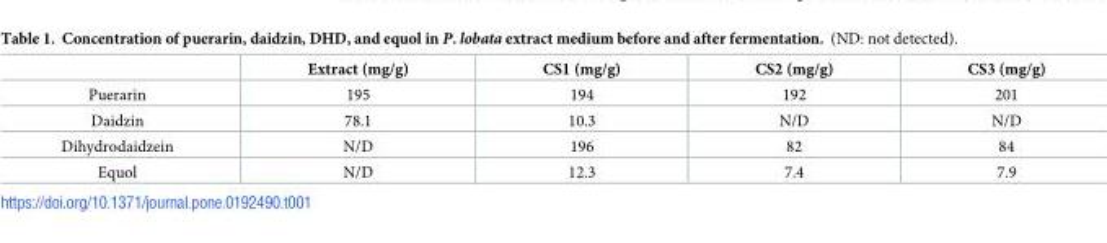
<table><thead><tr><td></td><td>Extract (mg/g)</td><td>CS1 (mg/g)</td><td>CS2 (mg/g)</td><td>CS3 (mg/g)</td></tr></thead><tbody><tr><td>Puerarin</td><td>195</td><td>194</td><td>192</td><td>201</td></tr><tr><td>Daidzin</td><td>78.1</td><td>10.3</td><td>N/D</td><td>N/D</td></tr><tr><td>Dihydrodaidzein</td><td>N/D</td><td>196</td><td>82</td><td>84</td></tr><tr><td>Equol</td><td>N/D</td><td>12.3</td><td>7.4</td><td>7.9</td></tr></tbody></table>